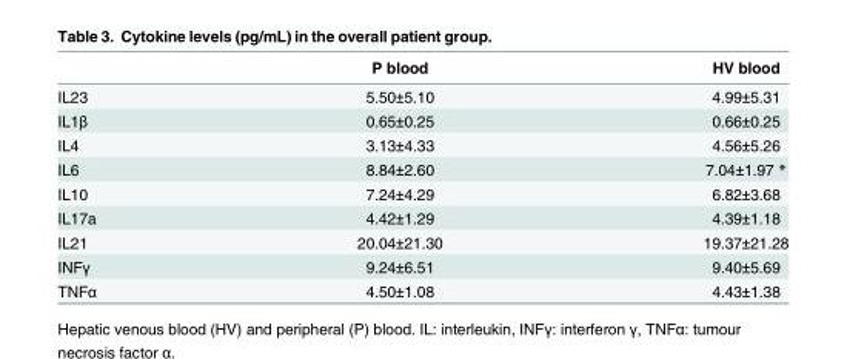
<table><thead><tr><td></td><td>P blood</td><td>HV blood</td></tr></thead><tbody><tr><td>IL23</td><td>5.50±5.10</td><td>4.99±5.31</td></tr><tr><td>IL1β</td><td>0.65±0.25</td><td>0.66±0.25</td></tr><tr><td>IL4</td><td>3.13±4.33</td><td>4.56±5.26</td></tr><tr><td>IL6</td><td>8.84±2.60</td><td>7.04±1.97 *</td></tr><tr><td>IL10</td><td>7.24±4.29</td><td>6.82±3.68</td></tr><tr><td>IL17a</td><td>4.42±1.29</td><td>4.39±1.18</td></tr><tr><td>IL21</td><td>20.04±21.30</td><td>19.37±21.28</td></tr><tr><td>INFγ</td><td>9.24±6.51</td><td>9.40±5.69</td></tr><tr><td>TNFα</td><td>4.50±1.08</td><td>4.43±1.38</td></tr></tbody></table>